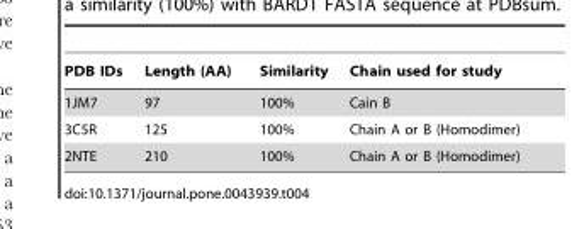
<table><thead><tr><td>PDB IDs</td><td>Length (AA)</td><td>Similarity</td><td>Chain used for study</td></tr></thead><tbody><tr><td>1JM7</td><td>97</td><td>100%</td><td>Cain B</td></tr><tr><td>3C5R</td><td>125</td><td>100%</td><td>Chain A or B (Homodimer)</td></tr><tr><td>2NTE</td><td>210</td><td>100%</td><td>Chain A or B (Homodimer)</td></tr></tbody></table>